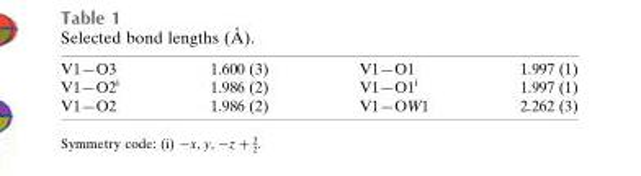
<table><tbody><tr><td>V1—O3</td><td>1.600 (3)</td><td>V1—O1</td><td>1.997 (1)</td></tr><tr><td>V1—O2<sup>i</sup></td><td>1.986 (2)</td><td>V1—O1<sup>i</sup></td><td>1.997 (1)</td></tr><tr><td>V1—O2</td><td>1.986 (2)</td><td>V1—OW1</td><td>2.262 (3)</td></tr></tbody></table>